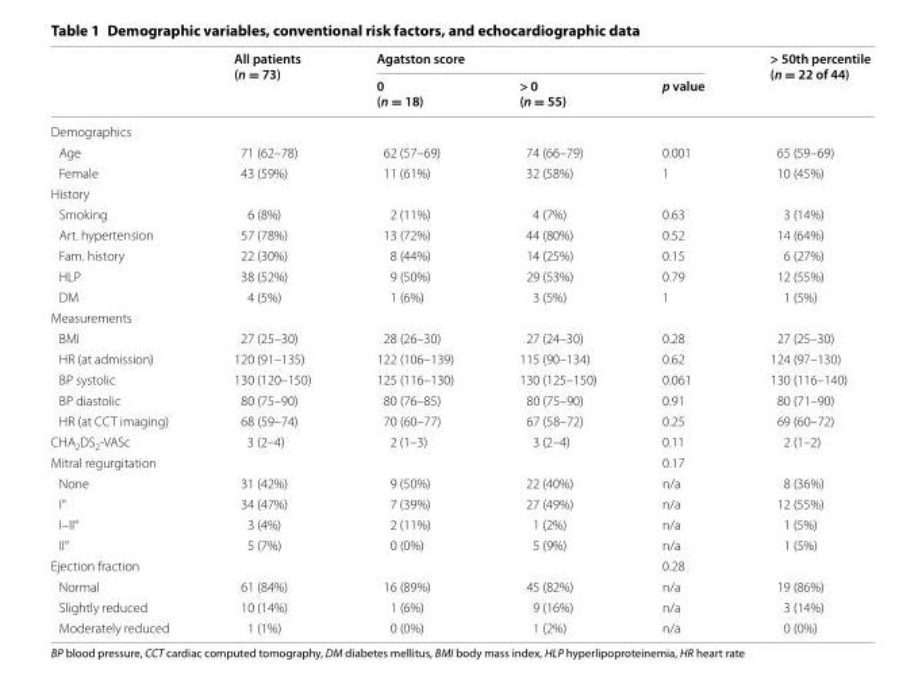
<table><thead><tr><td rowspan="2"></td><td rowspan="2">All patients (n = 73)</td><td colspan="3">Agatston score</td><td rowspan="2">&gt; 50th percentile (n = 22 of 44)</td></tr><tr><td>0 (n = 18)</td><td>&gt; 0 (n = 55)</td><td>p value</td></tr></thead><tbody><tr><td colspan="6">Demographics</td></tr><tr><td>Age</td><td>71 (62–78)</td><td>62 (57–69)</td><td>74 (66–79)</td><td>0.001</td><td>65 (59–69)</td></tr><tr><td>Female</td><td>43 (59%)</td><td>11 (61%)</td><td>32 (58%)</td><td>1</td><td>10 (45%)</td></tr><tr><td colspan="6">History</td></tr><tr><td>Smoking</td><td>6 (8%)</td><td>2 (11%)</td><td>4 (7%)</td><td>0.63</td><td>3 (14%)</td></tr><tr><td>Art. hypertension</td><td>57 (78%)</td><td>13 (72%)</td><td>44 (80%)</td><td>0.52</td><td>14 (64%)</td></tr><tr><td>Fam. history</td><td>22 (30%)</td><td>8 (44%)</td><td>14 (25%)</td><td>0.15</td><td>6 (27%)</td></tr><tr><td>HLP</td><td>38 (52%)</td><td>9 (50%)</td><td>29 (53%)</td><td>0.79</td><td>12 (55%)</td></tr><tr><td>DM</td><td>4 (5%)</td><td>1 (6%)</td><td>3 (5%)</td><td>1</td><td>1 (5%)</td></tr><tr><td colspan="6">Measurements</td></tr><tr><td>BMI</td><td>27 (25–30)</td><td>28 (26–30)</td><td>27 (24–30)</td><td>0.28</td><td>27 (25–30)</td></tr><tr><td>HR (at admission)</td><td>120 (91–135)</td><td>122 (106–139)</td><td>115 (90–134)</td><td>0.62</td><td>124 (97–130)</td></tr><tr><td>BP systolic</td><td>130 (120–150)</td><td>125 (116–130)</td><td>130 (125–150)</td><td>0.061</td><td>130 (116–140)</td></tr><tr><td>BP diastolic</td><td>80 (75–90)</td><td>80 (76–85)</td><td>80 (75–90)</td><td>0.91</td><td>80 (71–90)</td></tr><tr><td>HR (at CCT imaging)</td><td>68 (59–74)</td><td>70 (60–77)</td><td>67 (58–72)</td><td>0.25</td><td>69 (60–72)</td></tr><tr><td>CHA<sub>2</sub>DS<sub>2</sub>-VASc</td><td>3 (2–4)</td><td>2 (1–3)</td><td>3 (2–4)</td><td>0.11</td><td>2 (1–2)</td></tr><tr><td>Mitral regurgitation</td><td></td><td></td><td></td><td>0.17</td><td></td></tr><tr><td>None</td><td>31 (42%)</td><td>9 (50%)</td><td>22 (40%)</td><td>n/a</td><td>8 (36%)</td></tr><tr><td>I°</td><td>34 (47%)</td><td>7 (39%)</td><td>27 (49%)</td><td>n/a</td><td>12 (55%)</td></tr><tr><td>I–II°</td><td>3 (4%)</td><td>2 (11%)</td><td>1 (2%)</td><td>n/a</td><td>1 (5%)</td></tr><tr><td>II°</td><td>5 (7%)</td><td>0 (0%)</td><td>5 (9%)</td><td>n/a</td><td>1 (5%)</td></tr><tr><td>Ejection fraction</td><td></td><td></td><td></td><td>0.28</td><td></td></tr><tr><td>Normal</td><td>61 (84%)</td><td>16 (89%)</td><td>45 (82%)</td><td>n/a</td><td>19 (86%)</td></tr><tr><td>Slightly reduced</td><td>10 (14%)</td><td>1 (6%)</td><td>9 (16%)</td><td>n/a</td><td>3 (14%)</td></tr><tr><td>Moderately reduced</td><td>1 (1%)</td><td>0 (0%)</td><td>1 (2%)</td><td>n/a</td><td>0 (0%)</td></tr></tbody></table>